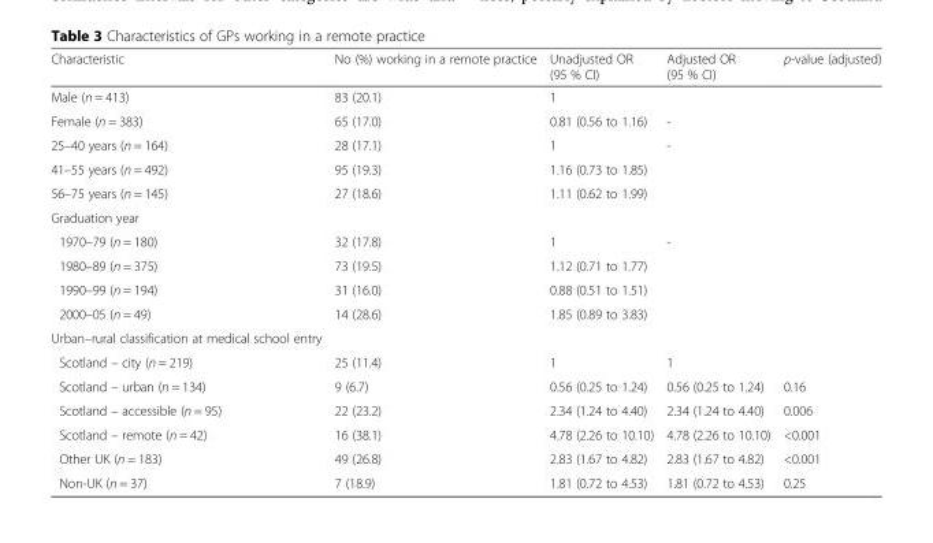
<table><thead><tr><td>Characteristic</td><td>No (%) working in a remote practice</td><td>Unadjusted OR (95 % CI)</td><td>Adjusted OR (95 % CI)</td><td>p-value (adjusted)</td></tr></thead><tbody><tr><td>Male (n = 413)</td><td>83 (20.1)</td><td>1</td><td></td><td></td></tr><tr><td>Female (n = 383)</td><td>65 (17.0)</td><td>0.81 (0.56 to 1.16)</td><td>-</td><td></td></tr><tr><td>25–40 years (n = 164)</td><td>28 (17.1)</td><td>1</td><td>-</td><td></td></tr><tr><td>41–55 years (n = 492)</td><td>95 (19.3)</td><td>1.16 (0.73 to 1.85)</td><td></td><td></td></tr><tr><td>56–75 years (n = 145)</td><td>27 (18.6)</td><td>1.11 (0.62 to 1.99)</td><td></td><td></td></tr><tr><td colspan="5">Graduation year</td></tr><tr><td>1970–79 (n = 180)</td><td>32 (17.8)</td><td>1</td><td>-</td><td></td></tr><tr><td>1980–89 (n = 375)</td><td>73 (19.5)</td><td>1.12 (0.71 to 1.77)</td><td></td><td></td></tr><tr><td>1990–99 (n = 194)</td><td>31 (16.0)</td><td>0.88 (0.51 to 1.51)</td><td></td><td></td></tr><tr><td>2000–05 (n = 49)</td><td>14 (28.6)</td><td>1.85 (0.89 to 3.83)</td><td></td><td></td></tr><tr><td colspan="5">Urban–rural classification at medical school entry</td></tr><tr><td>Scotland – city (n = 219)</td><td>25 (11.4)</td><td>1</td><td>1</td><td></td></tr><tr><td>Scotland – urban (n = 134)</td><td>9 (6.7)</td><td>0.56 (0.25 to 1.24)</td><td>0.56 (0.25 to 1.24)</td><td>0.16</td></tr><tr><td>Scotland – accessible (n = 95)</td><td>22 (23.2)</td><td>2.34 (1.24 to 4.40)</td><td>2.34 (1.24 to 4.40)</td><td>0.006</td></tr><tr><td>Scotland – remote (n = 42)</td><td>16 (38.1)</td><td>4.78 (2.26 to 10.10)</td><td>4.78 (2.26 to 10.10)</td><td>&lt;0.001</td></tr><tr><td>Other UK (n = 183)</td><td>49 (26.8)</td><td>2.83 (1.67 to 4.82)</td><td>2.83 (1.67 to 4.82)</td><td>&lt;0.001</td></tr><tr><td>Non-UK (n = 37)</td><td>7 (18.9)</td><td>1.81 (0.72 to 4.53)</td><td>1.81 (0.72 to 4.53)</td><td>0.25</td></tr></tbody></table>